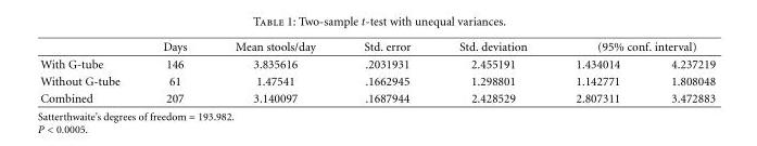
<table><thead><tr><td rowspan="2">With G-tube</td><td rowspan="2">Days 146</td><td rowspan="2">Mean stools/day 3.835616</td><td rowspan="2">Std. error .2031931</td><td rowspan="2">Std. deviation 2.455191</td><td colspan="2">(95% conf. interval)</td></tr><tr><td>1.434014</td><td>4.237219</td></tr></thead><tbody><tr><td>Without G-tube</td><td>61</td><td>1.47541</td><td>.1662945</td><td>1.298801</td><td>1.142771</td><td>1.808048</td></tr><tr><td>Combined</td><td>207</td><td>3.140097</td><td>.1687944</td><td>2.428529</td><td>2.807311</td><td>3.472883</td></tr></tbody></table>